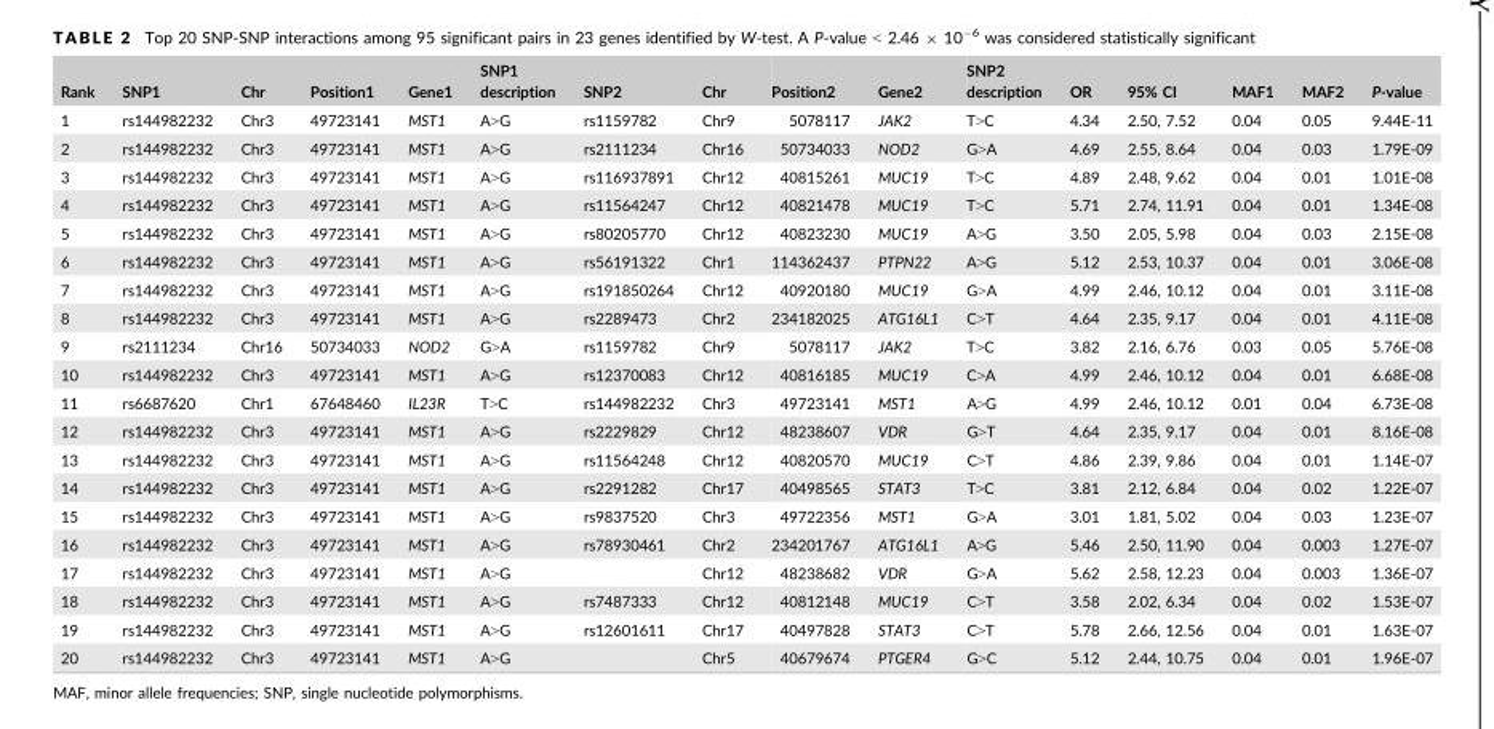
<table><thead><tr><td>Rank</td><td>SNP1</td><td>Chr</td><td>Position1</td><td>Gene1</td><td>SNP1 description</td><td>SNP2</td><td>Chr</td><td>Position2</td><td>Gene2</td><td>SNP2 description</td><td>OR</td><td>95% CI</td><td>MAF1</td><td>MAF2</td><td>P-value</td></tr></thead><tbody><tr><td>1</td><td>rs144982232</td><td>Chr3</td><td>49723141</td><td>MST1</td><td>A&gt;G</td><td>rs1159782</td><td>Chr9</td><td>5078117</td><td>JAK2</td><td>T&gt;C</td><td>4.34</td><td>2.50, 7.52</td><td>0.04</td><td>0.05</td><td>9.44E-11</td></tr><tr><td>2</td><td>rs144982232</td><td>Chr3</td><td>49723141</td><td>MST1</td><td>A&gt;G</td><td>rs2111234</td><td>Chr16</td><td>50734033</td><td>NOD2</td><td>G&gt;A</td><td>4.69</td><td>2.55, 8.64</td><td>0.04</td><td>0.03</td><td>1.79E-09</td></tr><tr><td>3</td><td>rs144982232</td><td>Chr3</td><td>49723141</td><td>MST1</td><td>A&gt;G</td><td>rs116937891</td><td>Chr12</td><td>40815261</td><td>MUC19</td><td>T&gt;C</td><td>4.89</td><td>2.48, 9.62</td><td>0.04</td><td>0.01</td><td>1.01E-08</td></tr><tr><td>4</td><td>rs144982232</td><td>Chr3</td><td>49723141</td><td>MST1</td><td>A&gt;G</td><td>rs11564247</td><td>Chr12</td><td>40821478</td><td>MUC19</td><td>T&gt;C</td><td>5.71</td><td>2.74, 11.91</td><td>0.04</td><td>0.01</td><td>1.34E-08</td></tr><tr><td>5</td><td>rs144982232</td><td>Chr3</td><td>49723141</td><td>MST1</td><td>A&gt;G</td><td>rs80205770</td><td>Chr12</td><td>40823230</td><td>MUC19</td><td>A&gt;G</td><td>3.50</td><td>2.05, 5.98</td><td>0.04</td><td>0.03</td><td>2.15E-08</td></tr><tr><td>6</td><td>rs144982232</td><td>Chr3</td><td>49723141</td><td>MST1</td><td>A&gt;G</td><td>rs56191322</td><td>Chr1</td><td>114362437</td><td>PTPN22</td><td>A&gt;G</td><td>5.12</td><td>2.53, 10.37</td><td>0.04</td><td>0.01</td><td>3.06E-08</td></tr><tr><td>7</td><td>rs144982232</td><td>Chr3</td><td>49723141</td><td>MST1</td><td>A&gt;G</td><td>rs191850264</td><td>Chr12</td><td>40920180</td><td>MUC19</td><td>G&gt;A</td><td>4.99</td><td>2.46, 10.12</td><td>0.04</td><td>0.01</td><td>3.11E-08</td></tr><tr><td>8</td><td>rs144982232</td><td>Chr3</td><td>49723141</td><td>MST1</td><td>A&gt;G</td><td>rs2289473</td><td>Chr2</td><td>234182025</td><td>ATG16L1</td><td>C&gt;T</td><td>4.64</td><td>2.35, 9.17</td><td>0.04</td><td>0.01</td><td>4.11E-08</td></tr><tr><td>9</td><td>rs2111234</td><td>Chr16</td><td>50734033</td><td>NOD2</td><td>G&gt;A</td><td>rs1159782</td><td>Chr9</td><td>5078117</td><td>JAK2</td><td>T&gt;C</td><td>3.82</td><td>2.16, 6.76</td><td>0.03</td><td>0.05</td><td>5.76E-08</td></tr><tr><td>10</td><td>rs144982232</td><td>Chr3</td><td>49723141</td><td>MST1</td><td>A&gt;G</td><td>rs12370083</td><td>Chr12</td><td>40816185</td><td>MUC19</td><td>C&gt;A</td><td>4.99</td><td>2.46, 10.12</td><td>0.04</td><td>0.01</td><td>6.68E-08</td></tr><tr><td>11</td><td>rs6687620</td><td>Chr1</td><td>67648460</td><td>IL23R</td><td>T&gt;C</td><td>rs144982232</td><td>Chr3</td><td>49723141</td><td>MST1</td><td>A&gt;G</td><td>4.99</td><td>2.46, 10.12</td><td>0.01</td><td>0.04</td><td>6.73E-08</td></tr><tr><td>12</td><td>rs144982232</td><td>Chr3</td><td>49723141</td><td>MST1</td><td>A&gt;G</td><td>rs2229829</td><td>Chr12</td><td>48238607</td><td>VDR</td><td>G&gt;T</td><td>4.64</td><td>2.35, 9.17</td><td>0.04</td><td>0.01</td><td>8.16E-08</td></tr><tr><td>13</td><td>rs144982232</td><td>Chr3</td><td>49723141</td><td>MST1</td><td>A&gt;G</td><td>rs11564248</td><td>Chr12</td><td>40820570</td><td>MUC19</td><td>C&gt;T</td><td>4.86</td><td>2.39, 9.86</td><td>0.04</td><td>0.01</td><td>1.14E-07</td></tr><tr><td>14</td><td>rs144982232</td><td>Chr3</td><td>49723141</td><td>MST1</td><td>A&gt;G</td><td>rs2291282</td><td>Chr17</td><td>40498565</td><td>STAT3</td><td>T&gt;C</td><td>3.81</td><td>2.12, 6.84</td><td>0.04</td><td>0.02</td><td>1.22E-07</td></tr><tr><td>15</td><td>rs144982232</td><td>Chr3</td><td>49723141</td><td>MST1</td><td>A&gt;G</td><td>rs9837520</td><td>Chr3</td><td>49722356</td><td>MST1</td><td>G&gt;A</td><td>3.01</td><td>1.81, 5.02</td><td>0.04</td><td>0.03</td><td>1.23E-07</td></tr><tr><td>16</td><td>rs144982232</td><td>Chr3</td><td>49723141</td><td>MST1</td><td>A&gt;G</td><td>rs78930461</td><td>Chr2</td><td>234201767</td><td>ATG16L1</td><td>A&gt;G</td><td>5.46</td><td>2.50, 11.90</td><td>0.04</td><td>0.003</td><td>1.27E-07</td></tr><tr><td>17</td><td>rs144982232</td><td>Chr3</td><td>49723141</td><td>MST1</td><td>A&gt;G</td><td></td><td>Chr12</td><td>48238682</td><td>VDR</td><td>G&gt;A</td><td>5.62</td><td>2.58, 12.23</td><td>0.04</td><td>0.003</td><td>1.36E-07</td></tr><tr><td>18</td><td>rs144982232</td><td>Chr3</td><td>49723141</td><td>MST1</td><td>A&gt;G</td><td>rs7487333</td><td>Chr12</td><td>40812148</td><td>MUC19</td><td>C&gt;T</td><td>3.58</td><td>2.02, 6.34</td><td>0.04</td><td>0.02</td><td>1.53E-07</td></tr><tr><td>19</td><td>rs144982232</td><td>Chr3</td><td>49723141</td><td>MST1</td><td>A&gt;G</td><td>rs12601611</td><td>Chr17</td><td>40497828</td><td>STAT3</td><td>C&gt;T</td><td>5.78</td><td>2.66, 12.56</td><td>0.04</td><td>0.01</td><td>1.63E-07</td></tr><tr><td>20</td><td>rs144982232</td><td>Chr3</td><td>49723141</td><td>MST1</td><td>A&gt;G</td><td></td><td>Chr5</td><td>40679674</td><td>PTGER4</td><td>G&gt;C</td><td>5.12</td><td>2.44, 10.75</td><td>0.04</td><td>0.01</td><td>1.96E-07</td></tr></tbody></table>